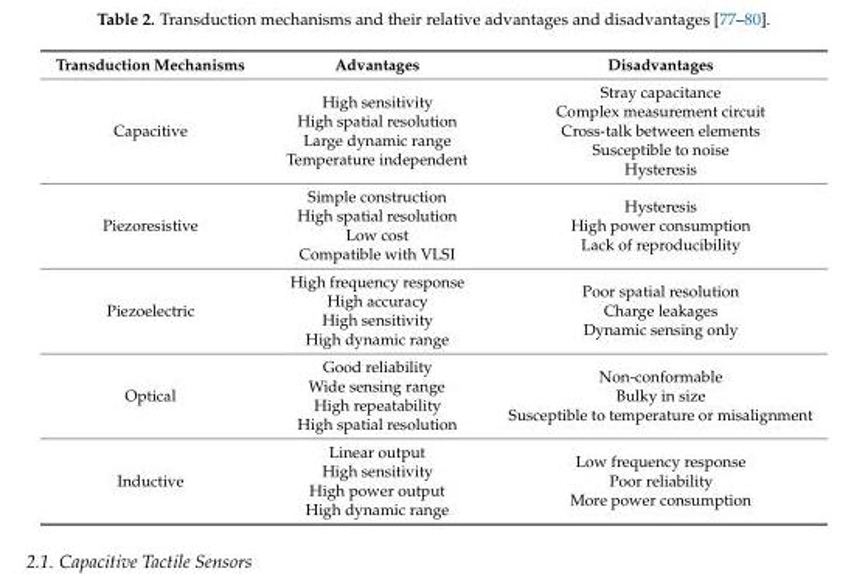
<table><thead><tr><td>Transduction Mechanisms</td><td>Advantages</td><td>Disadvantages</td></tr></thead><tbody><tr><td>Capacitive</td><td>High sensitivity High spatial resolution Large dynamic range Temperature independent</td><td>Stray capacitance Complex measurement circuit Cross-talk between elements Susceptible to noise Hysteresis</td></tr><tr><td>Piezoresistive</td><td>Simple construction High spatial resolution Low cost Compatible with VLSI</td><td>Hysteresis High power consumption Lack of reproducibility</td></tr><tr><td>Piezoelectric</td><td>High frequency response High accuracy High sensitivity High dynamic range</td><td>Poor spatial resolution Charge leakages Dynamic sensing only</td></tr><tr><td>Optical</td><td>Good reliability Wide sensing range High repeatability High spatial resolution</td><td>Non-conformable Bulky in size Susceptible to temperature or misalignment</td></tr><tr><td>Inductive</td><td>Linear output High sensitivity High power output High dynamic range</td><td>Low frequency response Poor reliability More power consumption</td></tr></tbody></table>